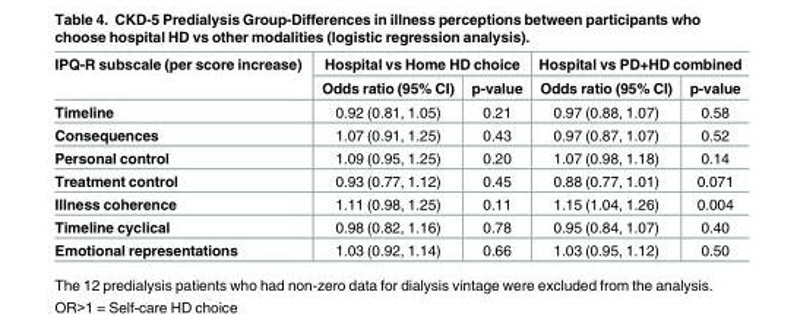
<table><thead><tr><td rowspan="2">IPQ-R subscale (per score increase)</td><td colspan="2">Hospital vs Home HD choice</td><td colspan="2">Hospital vs PD+HD combined</td></tr><tr><td>Odds ratio (95% CI)</td><td>p-value</td><td>Odds ratio (95% CI)</td><td>p-value</td></tr></thead><tbody><tr><td>Timeline</td><td>0.92 (0.81, 1.05)</td><td>0.21</td><td>0.97 (0.88, 1.07)</td><td>0.58</td></tr><tr><td>Consequences</td><td>1.07 (0.91, 1.25)</td><td>0.43</td><td>0.97 (0.87, 1.07)</td><td>0.52</td></tr><tr><td>Personal control</td><td>1.09 (0.95, 1.25)</td><td>0.20</td><td>1.07 (0.98, 1.18)</td><td>0.14</td></tr><tr><td>Treatment control</td><td>0.93 (0.77, 1.12)</td><td>0.45</td><td>0.88 (0.77, 1.01)</td><td>0.071</td></tr><tr><td>Illness coherence</td><td>1.11 (0.98, 1.25)</td><td>0.11</td><td>1.15 (1.04, 1.26)</td><td>0.004</td></tr><tr><td>Timeline cyclical</td><td>0.98 (0.82, 1.16)</td><td>0.78</td><td>0.95 (0.84, 1.07)</td><td>0.40</td></tr><tr><td>Emotional representations</td><td>1.03 (0.92, 1.14)</td><td>0.66</td><td>1.03 (0.95, 1.12)</td><td>0.50</td></tr></tbody></table>